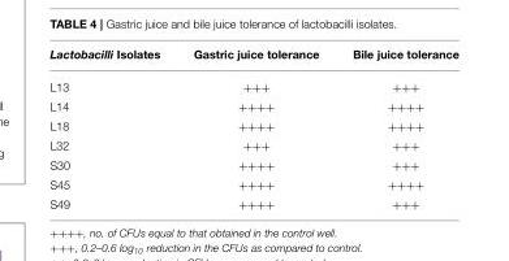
<table><thead><tr><td>Lactobacilli Isolates</td><td>Gastric juice tolerance</td><td>Bile juice tolerance</td></tr></thead><tbody><tr><td>L13</td><td><sup>+++</sup></td><td><sup>+++</sup></td></tr><tr><td>L14</td><td><sup>++++</sup></td><td><sup>++++</sup></td></tr><tr><td>L18</td><td><sup>++++</sup></td><td><sup>++++</sup></td></tr><tr><td>L32</td><td><sup>+++</sup></td><td><sup>+++</sup></td></tr><tr><td>S30</td><td><sup>++++</sup></td><td><sup>+++</sup></td></tr><tr><td>S45</td><td><sup>++++</sup></td><td><sup>++++</sup></td></tr><tr><td>S49</td><td><sup>++++</sup></td><td><sup>+++</sup></td></tr></tbody></table>